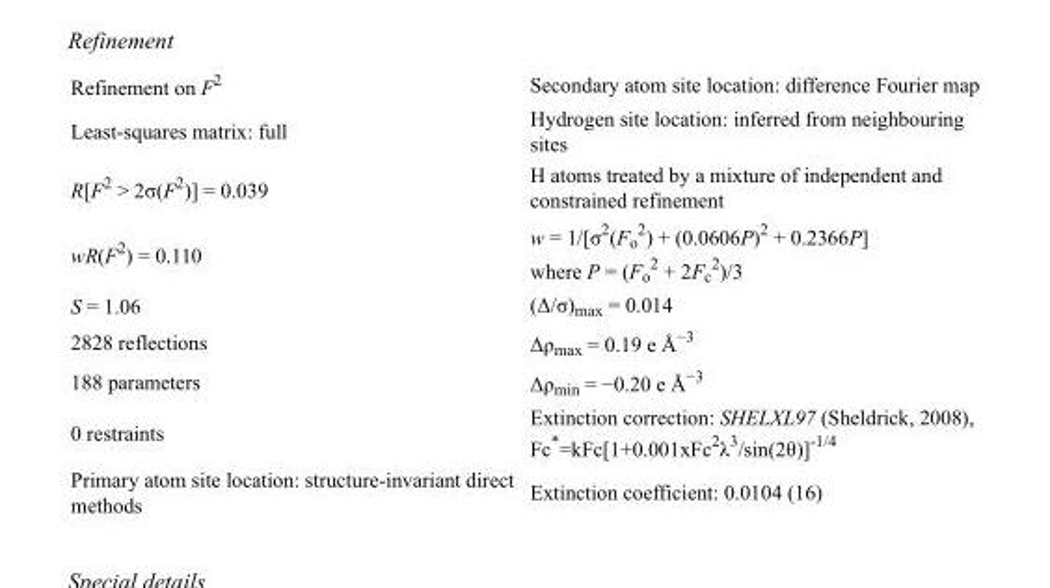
<table><tbody><tr><td>Refinement on F<sup>2</sup></td><td>Secondary atom site location: difference Fourier map</td></tr><tr><td>Least-squares matrix: full</td><td>Hydrogen site location: inferred from neighbouring sites</td></tr><tr><td>R[F<sup>2</sup> &gt; 2σ(F<sup>2</sup>)] = 0.039</td><td>H atoms treated by a mixture of independent and constrained refinement</td></tr><tr><td>wR(F<sup>2</sup>) = 0.110</td><td>w = 1/[σ<sup>2</sup>(F<sub>o</sub> <sup>2</sup>) + (0.0606P)<sup>2</sup> + 0.2366P] where P = (F<sub>o</sub> <sup>2</sup> + 2F<sub>c</sub> <sup>2</sup>)/3</td></tr><tr><td>S = 1.06</td><td>(Δ/σ)<sub>max</sub> = 0.014</td></tr><tr><td>2828 reflections</td><td>Δρ<sub>max</sub> = 0.19 e Å<sup>−3</sup></td></tr><tr><td>188 parameters</td><td>Δρ<sub>min</sub> = −0.20 e Å<sup>−3</sup></td></tr><tr><td>0 restraints</td><td>Extinction correction: SHELXL97 (Sheldrick, 2008), Fc*=kFc[1+0.001xFc<sup>2</sup>λ<sup>3</sup>/sin(2θ)]<sup>-1/4</sup></td></tr><tr><td>Primary atom site location: structure-invariant direct methods</td><td>Extinction coefficient: 0.0104 (16)</td></tr></tbody></table>